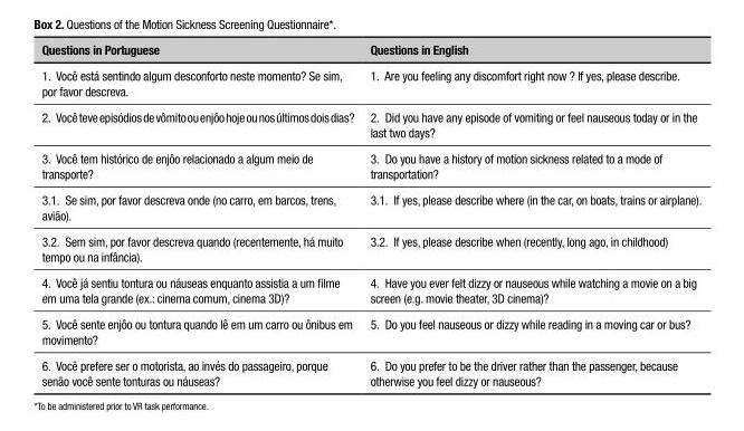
<table><thead><tr><td>Questions in Portuguese</td><td>Questions in English</td></tr></thead><tbody><tr><td>1. Você está sentindo algum desconforto neste momento? Se sim, por favor descreva.</td><td>1. Are you feeling any discomfort right now ? If yes, please describe.</td></tr><tr><td>2. Você teve episódios de vômito ou enjôo hoje ou nos últimos dois dias?</td><td>2. Did you have any episode of vomiting or feel nauseous today or in the last two days?</td></tr><tr><td>3. Você tem histórico de enjôo relacionado a algum meio de transporte?</td><td>3. Do you have a history of motion sickness related to a mode of transportation?</td></tr><tr><td>3.1. Se sim, por favor descreva onde (no carro, em barcos, trens, avião).</td><td>3.1. If yes, please describe where (in the car, on boats, trains or airplane).</td></tr><tr><td>3.2. Sem sim, por favor descreva quando (recentemente, há muito tempo ou na infância).</td><td>3.2. If yes, please describe when (recently, long ago, in childhood)</td></tr><tr><td>4. Você já sentiu tontura ou náuseas enquanto assistia a um filme em uma tela grande (ex.: cinema comum, cinema 3D)?</td><td>4. Have you ever felt dizzy or nauseous while watching a movie on a big screen (e.g. movie theater, 3D cinema)?</td></tr><tr><td>5. Você sente enjôo ou tontura quando lê em um carro ou ônibus em movimento?</td><td>5. Do you feel nauseous or dizzy while reading in a moving car or bus?</td></tr><tr><td>6. Você prefere ser o motorista, ao invés do passageiro, porque senão você sente tonturas ou náuseas?</td><td>6. Do you prefer to be the driver rather than the passenger, because otherwise you feel dizzy or nauseous?</td></tr></tbody></table>